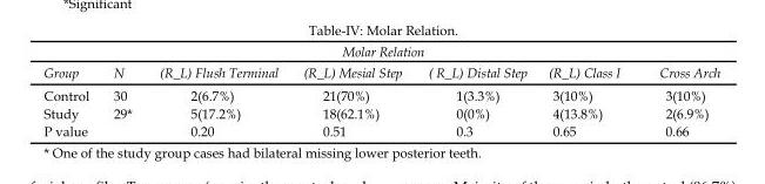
<table><thead><tr><td colspan="7">Molar Relation</td></tr><tr><td>Group</td><td>N</td><td>(R_L) Flush Terminal</td><td>(R_L) Mesial Step</td><td>( R_L) Distal Step</td><td>(R_L) Class I</td><td>Cross Arch</td></tr></thead><tbody><tr><td>Control</td><td>30</td><td>2(6.7%)</td><td>21(70%)</td><td>1(3.3%)</td><td>3(10%)</td><td>3(10%)</td></tr><tr><td>Study</td><td>29*</td><td>5(17.2%)</td><td>18(62.1%)</td><td>0(0%)</td><td>4(13.8%)</td><td>2(6.9%)</td></tr><tr><td>P value</td><td></td><td>0.20</td><td>0.51</td><td>0.3</td><td>0.65</td><td>0.66</td></tr></tbody></table>